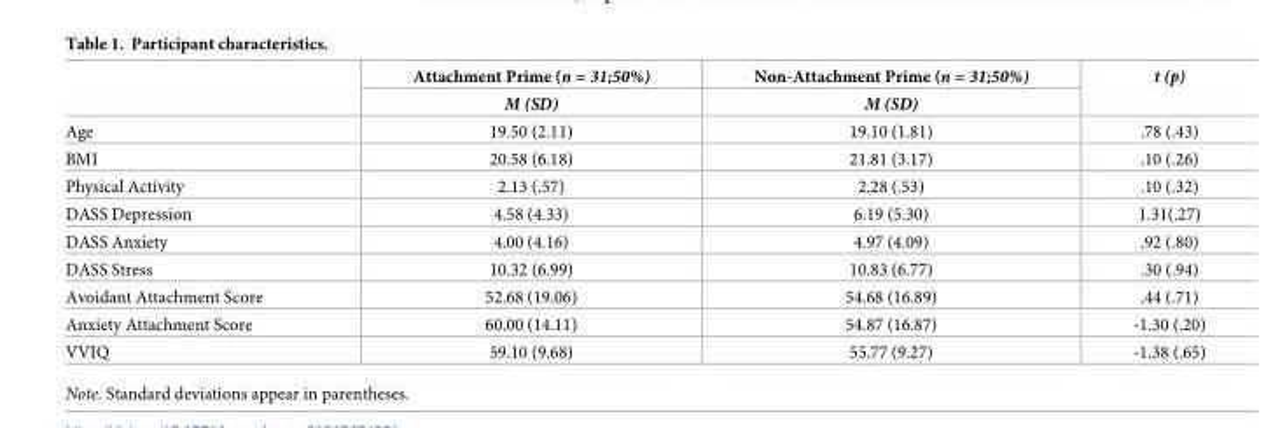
<table><thead><tr><td rowspan="2"></td><td rowspan="2">Attachment Prime (n = 31;50%) M (SD)</td><td rowspan="2">Non-Attachment Prime (n = 31;50%) M (SD)</td><td rowspan="2">t (p)</td></tr><tr></tr></thead><tbody><tr><td>Age</td><td>19.50 (2.11)</td><td>19.10 (1.81)</td><td>.78 (.43)</td></tr><tr><td>BMI</td><td>20.58 (6.18)</td><td>21.81 (3.17)</td><td>.10 (.26)</td></tr><tr><td>Physical Activity</td><td>2.13 (.57)</td><td>2.28 (.53)</td><td>.10 (.32)</td></tr><tr><td>DASS Depression</td><td>4.58 (4.33)</td><td>6.19 (5.30)</td><td>1.31(.27)</td></tr><tr><td>DASS Anxiety</td><td>4.00 (4.16)</td><td>4.97 (4.09)</td><td>.92 (.80)</td></tr><tr><td>DASS Stress</td><td>10.32 (6.99)</td><td>10.83 (6.77)</td><td>.30 (.94)</td></tr><tr><td>Avoidant Attachment Score</td><td>52.68 (19.06)</td><td>54.68 (16.89)</td><td>.44 (.71)</td></tr><tr><td>Anxiety Attachment Score</td><td>60.00 (14.11)</td><td>54.87 (16.87)</td><td>-1.30 (.20)</td></tr><tr><td>VVIQ</td><td>59.10 (9.68)</td><td>55.77 (9.27)</td><td>-1.38 (.65)</td></tr></tbody></table>